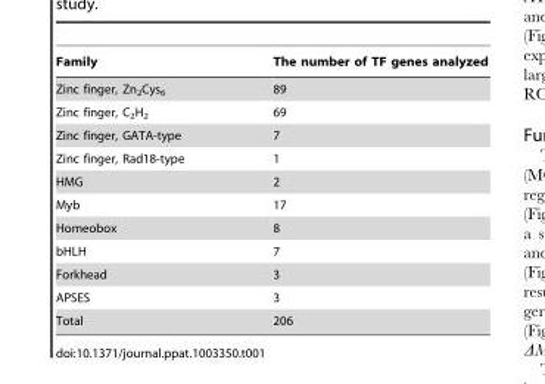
<table><thead><tr><td>Family</td><td>The number of TF genes analyzed</td></tr></thead><tbody><tr><td>Zinc finger, Zn<sub>2</sub>Cys<sub>6</sub></td><td>89</td></tr><tr><td>Zinc finger, C<sub>2</sub>H<sub>2</sub></td><td>69</td></tr><tr><td>Zinc finger, GATA-type</td><td>7</td></tr><tr><td>Zinc finger, Rad18-type</td><td>1</td></tr><tr><td>HMG</td><td>2</td></tr><tr><td>Myb</td><td>17</td></tr><tr><td>Homeobox</td><td>8</td></tr><tr><td>bHLH</td><td>7</td></tr><tr><td>Forkhead</td><td>3</td></tr><tr><td>APSES</td><td>3</td></tr><tr><td>Total</td><td>206</td></tr></tbody></table>